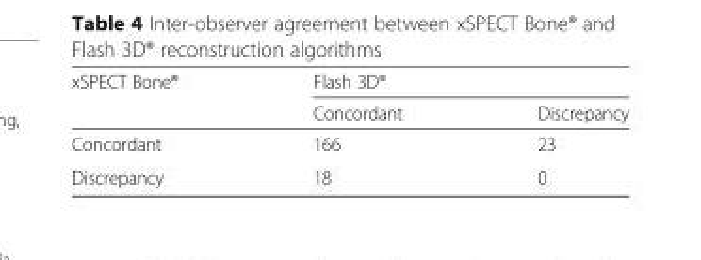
<table><thead><tr><td rowspan="2">xSPECT Bone®</td><td colspan="2">Flash 3D®</td></tr><tr><td>Concordant</td><td>Discrepancy</td></tr></thead><tbody><tr><td>Concordant</td><td>166</td><td>23</td></tr><tr><td>Discrepancy</td><td>18</td><td>0</td></tr></tbody></table>